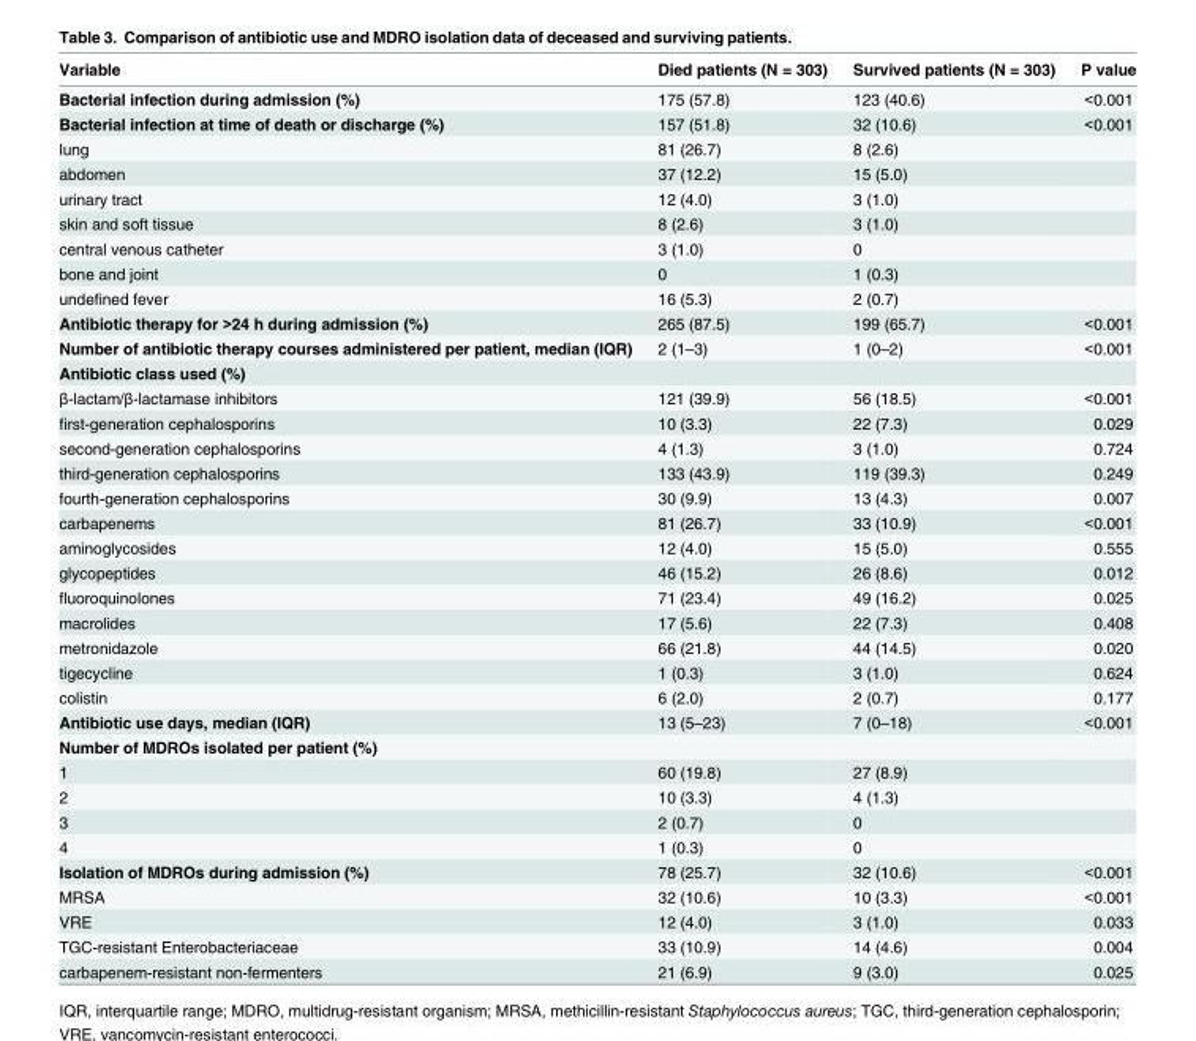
<table><thead><tr><td>Variable</td><td>Died patients (N = 303)</td><td>Survived patients (N = 303)</td><td>P value</td></tr></thead><tbody><tr><td>Bacterial infection during admission (%)</td><td>175 (57.8)</td><td>123 (40.6)</td><td>&lt;0.001</td></tr><tr><td>Bacterial infection at time of death or discharge (%)</td><td>157 (51.8)</td><td>32 (10.6)</td><td>&lt;0.001</td></tr><tr><td>lung</td><td>81 (26.7)</td><td>8 (2.6)</td><td></td></tr><tr><td>abdomen</td><td>37 (12.2)</td><td>15 (5.0)</td><td></td></tr><tr><td>urinary tract</td><td>12 (4.0)</td><td>3 (1.0)</td><td></td></tr><tr><td>skin and soft tissue</td><td>8 (2.6)</td><td>3 (1.0)</td><td></td></tr><tr><td>central venous catheter</td><td>3 (1.0)</td><td>0</td><td></td></tr><tr><td>bone and joint</td><td>0</td><td>1 (0.3)</td><td></td></tr><tr><td>undefined fever</td><td>16 (5.3)</td><td>2 (0.7)</td><td></td></tr><tr><td>Antibiotic therapy for &gt;24 h during admission (%)</td><td>265 (87.5)</td><td>199 (65.7)</td><td>&lt;0.001</td></tr><tr><td>Number of antibiotic therapy courses administered per patient, median (IQR)</td><td>2 (1–3)</td><td>1 (0–2)</td><td>&lt;0.001</td></tr><tr><td colspan="4">Antibiotic class used (%)</td></tr><tr><td>β-lactam/β-lactamase inhibitors</td><td>121 (39.9)</td><td>56 (18.5)</td><td>&lt;0.001</td></tr><tr><td>first-generation cephalosporins</td><td>10 (3.3)</td><td>22 (7.3)</td><td>0.029</td></tr><tr><td>second-generation cephalosporins</td><td>4 (1.3)</td><td>3 (1.0)</td><td>0.724</td></tr><tr><td>third-generation cephalosporins</td><td>133 (43.9)</td><td>119 (39.3)</td><td>0.249</td></tr><tr><td>fourth-generation cephalosporins</td><td>30 (9.9)</td><td>13 (4.3)</td><td>0.007</td></tr><tr><td>carbapenems</td><td>81 (26.7)</td><td>33 (10.9)</td><td>&lt;0.001</td></tr><tr><td>aminoglycosides</td><td>12 (4.0)</td><td>15 (5.0)</td><td>0.555</td></tr><tr><td>glycopeptides</td><td>46 (15.2)</td><td>26 (8.6)</td><td>0.012</td></tr><tr><td>fluoroquinolones</td><td>71 (23.4)</td><td>49 (16.2)</td><td>0.025</td></tr><tr><td>macrolides</td><td>17 (5.6)</td><td>22 (7.3)</td><td>0.408</td></tr><tr><td>metronidazole</td><td>66 (21.8)</td><td>44 (14.5)</td><td>0.020</td></tr><tr><td>tigecycline</td><td>1 (0.3)</td><td>3 (1.0)</td><td>0.624</td></tr><tr><td>colistin</td><td>6 (2.0)</td><td>2 (0.7)</td><td>0.177</td></tr><tr><td>Antibiotic use days, median (IQR)</td><td>13 (5–23)</td><td>7 (0–18)</td><td>&lt;0.001</td></tr><tr><td colspan="4">Number of MDROs isolated per patient (%)</td></tr><tr><td>1</td><td>60 (19.8)</td><td>27 (8.9)</td><td></td></tr><tr><td>2</td><td>10 (3.3)</td><td>4 (1.3)</td><td></td></tr><tr><td>3</td><td>2 (0.7)</td><td>0</td><td></td></tr><tr><td>4</td><td>1 (0.3)</td><td>0</td><td></td></tr><tr><td>Isolation of MDROs during admission (%)</td><td>78 (25.7)</td><td>32 (10.6)</td><td>&lt;0.001</td></tr><tr><td>MRSA</td><td>32 (10.6)</td><td>10 (3.3)</td><td>&lt;0.001</td></tr><tr><td>VRE</td><td>12 (4.0)</td><td>3 (1.0)</td><td>0.033</td></tr><tr><td>TGC-resistant Enterobacteriaceae</td><td>33 (10.9)</td><td>14 (4.6)</td><td>0.004</td></tr><tr><td>carbapenem-resistant non-fermenters</td><td>21 (6.9)</td><td>9 (3.0)</td><td>0.025</td></tr></tbody></table>